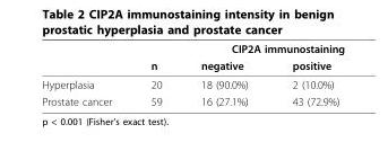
<table><thead><tr><td rowspan="2"></td><td rowspan="2">n</td><td colspan="2">CIP2A immunostaining</td></tr><tr><td>negative</td><td>positive</td></tr></thead><tbody><tr><td>Hyperplasia</td><td>20</td><td>18 (90.0%)</td><td>2 (10.0%)</td></tr><tr><td>Prostate cancer</td><td>59</td><td>16 (27.1%)</td><td>43 (72.9%)</td></tr></tbody></table>